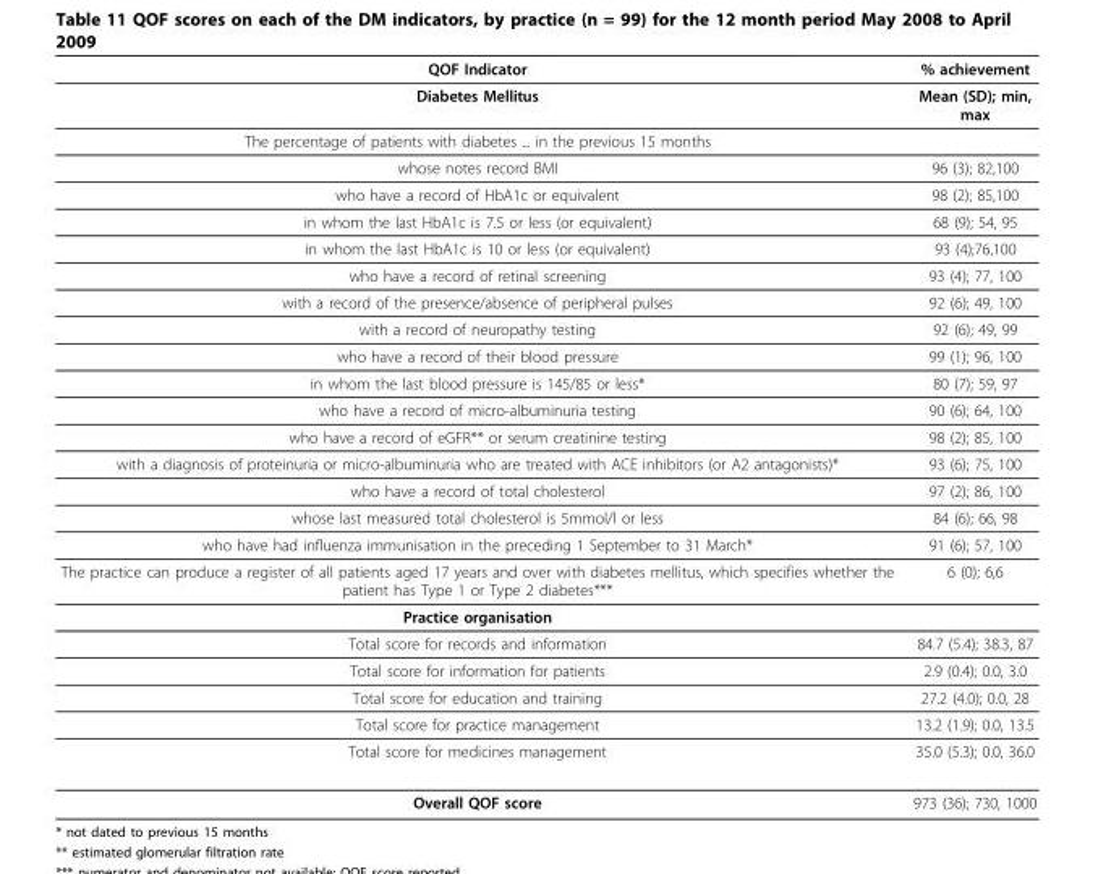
<table><thead><tr><td>QOF Indicator</td><td>% achievement</td></tr></thead><tbody><tr><td>Diabetes Mellitus</td><td>Mean (SD); min, max</td></tr><tr><td colspan="2">The percentage of patients with diabetes ... in the previous 15 months</td></tr><tr><td>whose notes record BMI</td><td>96 (3); 82,100</td></tr><tr><td>who have a record of HbA1c or equivalent</td><td>98 (2); 85,100</td></tr><tr><td>in whom the last HbA1c is 7.5 or less (or equivalent)</td><td>68 (9); 54, 95</td></tr><tr><td>in whom the last HbA1c is 10 or less (or equivalent)</td><td>93 (4);76,100</td></tr><tr><td>who have a record of retinal screening</td><td>93 (4); 77, 100</td></tr><tr><td>with a record of the presence/absence of peripheral pulses</td><td>92 (6); 49, 100</td></tr><tr><td>with a record of neuropathy testing</td><td>92 (6); 49, 99</td></tr><tr><td>who have a record of their blood pressure</td><td>99 (1); 96, 100</td></tr><tr><td>in whom the last blood pressure is 145/85 or less*</td><td>80 (7); 59, 97</td></tr><tr><td>who have a record of micro-albuminuria testing</td><td>90 (6); 64, 100</td></tr><tr><td>who have a record of eGFR** or serum creatinine testing</td><td>98 (2); 85, 100</td></tr><tr><td>with a diagnosis of proteinuria or micro-albuminuria who are treated with ACE inhibitors (or A2 antagonists)*</td><td>93 (6); 75, 100</td></tr><tr><td>who have a record of total cholesterol</td><td>97 (2); 86, 100</td></tr><tr><td>whose last measured total cholesterol is 5mmol/l or less</td><td>84 (6); 66, 98</td></tr><tr><td>who have had influenza immunisation in the preceding 1 September to 31 March*</td><td>91 (6); 57, 100</td></tr><tr><td>The practice can produce a register of all patients aged 17 years and over with diabetes mellitus, which specifies whether the patient has Type 1 or Type 2 diabetes***</td><td>6 (0); 6,6</td></tr><tr><td colspan="2">Practice organisation</td></tr><tr><td>Total score for records and information</td><td>84.7 (5.4); 38.3, 87</td></tr><tr><td>Total score for information for patients</td><td>2.9 (0.4); 0.0, 3.0</td></tr><tr><td>Total score for education and training</td><td>27.2 (4.0); 0.0, 28</td></tr><tr><td>Total score for practice management</td><td>13.2 (1.9); 0.0, 13.5</td></tr><tr><td>Total score for medicines management</td><td>35.0 (5.3); 0.0, 36.0</td></tr><tr><td>Overall QOF score</td><td>973 (36); 730, 1000</td></tr></tbody></table>